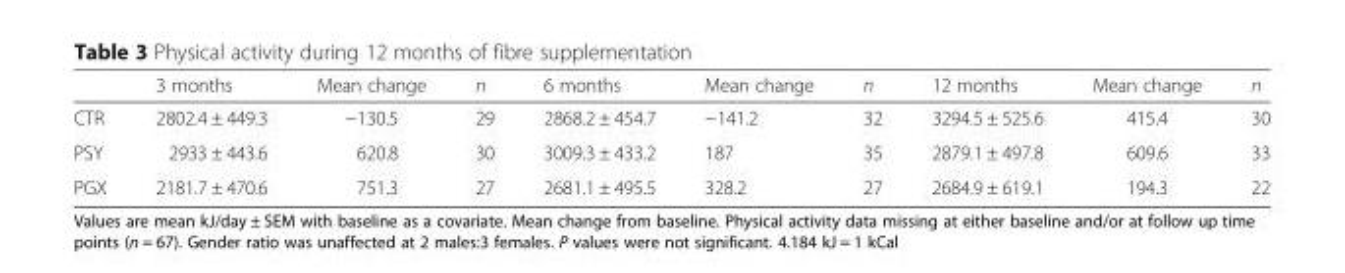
<table><thead><tr><td></td><td>3 months</td><td>Mean change</td><td>n</td><td>6 months</td><td>Mean change</td><td>n</td><td>12 months</td><td>Mean change</td><td>n</td></tr></thead><tbody><tr><td>CTR</td><td>2802.4 ± 449.3</td><td>−130.5</td><td>29</td><td>2868.2 ± 454.7</td><td>−141.2</td><td>32</td><td>3294.5 ± 525.6</td><td>415.4</td><td>30</td></tr><tr><td>PSY</td><td>2933 ± 443.6</td><td>620.8</td><td>30</td><td>3009.3 ± 433.2</td><td>187</td><td>35</td><td>2879.1 ± 497.8</td><td>609.6</td><td>33</td></tr><tr><td>PGX</td><td>2181.7 ± 470.6</td><td>751.3</td><td>27</td><td>2681.1 ± 495.5</td><td>328.2</td><td>27</td><td>2684.9 ± 619.1</td><td>194.3</td><td>22</td></tr></tbody></table>